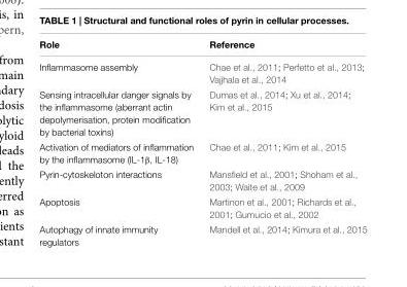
<table><thead><tr><td>Role</td><td>Reference</td></tr></thead><tbody><tr><td>Inflammasome assembly</td><td>Chae et al., 2011; Perfetto et al., 2013; Vajjhala et al., 2014</td></tr><tr><td>Sensing intracellular danger signals by the inflammasome (aberrant actin depolymerisation, protein modification by bacterial toxins)</td><td>Dumas et al., 2014; Xu et al., 2014; Kim et al., 2015</td></tr><tr><td>Activation of mediators of inflammation by the inflammasome (IL-1β, IL-18)</td><td>Chae et al., 2011; Kim et al., 2015</td></tr><tr><td>Pyrin-cytoskeloton interactions</td><td>Mansfield et al., 2001; Shoham et al., 2003; Waite et al., 2009</td></tr><tr><td>Apoptosis</td><td>Martinon et al., 2001; Richards et al., 2001; Gumucio et al., 2002</td></tr><tr><td>Autophagy of innate immunity regulators</td><td>Mandell et al., 2014; Kimura et al., 2015</td></tr></tbody></table>